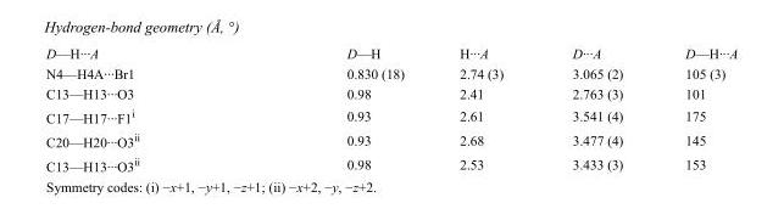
<table><tbody><tr><td>D—H···A</td><td>D—H</td><td>H···A</td><td>D···A</td><td>D—H···A</td></tr><tr><td>N4—H4A···Br1</td><td>0.830 (18)</td><td>2.74 (3)</td><td>3.065 (2)</td><td>105 (3)</td></tr><tr><td>C13—H13···O3</td><td>0.98</td><td>2.41</td><td>2.763 (3)</td><td>101</td></tr><tr><td>C17—H17···F1<sup>i</sup></td><td>0.93</td><td>2.61</td><td>3.541 (4)</td><td>175</td></tr><tr><td>C20—H20···O3<sup>ii</sup></td><td>0.93</td><td>2.68</td><td>3.477 (4)</td><td>145</td></tr><tr><td>C13—H13···O3<sup>ii</sup></td><td>0.98</td><td>2.53</td><td>3.433 (3)</td><td>153</td></tr></tbody></table>